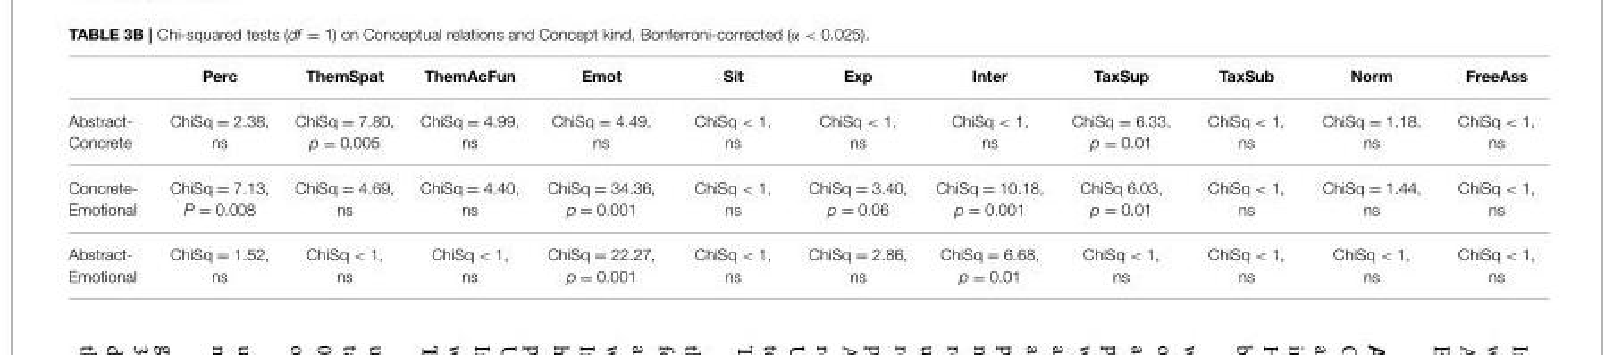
<table><thead><tr><td></td><td>Perc</td><td>ThemSpat</td><td>ThemAcFun</td><td>Emot</td><td>Sit</td><td>Exp</td><td>Inter</td><td>TaxSup</td><td>TaxSub</td><td>Norm</td><td>FreeAss</td></tr></thead><tbody><tr><td>Abstract- Concrete</td><td>ChiSq = 2.38, ns</td><td>ChiSq = 7.80, p = 0.005</td><td>ChiSq = 4.99, ns</td><td>ChiSq = 4.49, ns</td><td>ChiSq &lt; 1, ns</td><td>ChiSq &lt; 1, ns</td><td>ChiSq &lt; 1, ns</td><td>ChiSq = 6.33, p = 0.01</td><td>ChiSq &lt; 1, ns</td><td>ChiSq = 1.18, ns</td><td>ChiSq &lt; 1, ns</td></tr><tr><td>Concrete- Emotional</td><td>ChiSq = 7.13, P = 0.008</td><td>ChiSq = 4.69, ns</td><td>ChiSq = 4.40, ns</td><td>ChiSq = 34.36, p = 0.001</td><td>ChiSq &lt; 1, ns</td><td>ChiSq = 3.40, p = 0.06</td><td>ChiSq = 10.18, p = 0.001</td><td>ChiSq 6.03, p = 0.01</td><td>ChiSq &lt; 1, ns</td><td>ChiSq = 1.44, ns</td><td>ChiSq &lt; 1, ns</td></tr><tr><td>Abstract- Emotional</td><td>ChiSq = 1.52, ns</td><td>ChiSq &lt; 1, ns</td><td>ChiSq &lt; 1, ns</td><td>ChiSq = 22.27, p = 0.001</td><td>ChiSq &lt; 1, ns</td><td>ChiSq = 2.86, ns</td><td>ChiSq = 6.68, p = 0.01</td><td>ChiSq &lt; 1, ns</td><td>ChiSq &lt; 1, ns</td><td>ChiSq &lt; 1, ns</td><td>ChiSq &lt; 1, ns</td></tr></tbody></table>